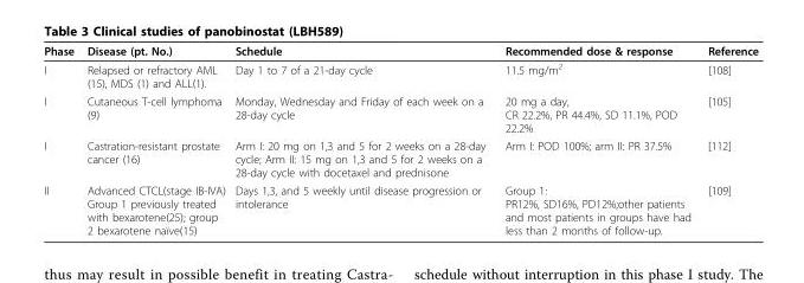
<table><thead><tr><td>Phase</td><td>Disease (pt. No.)</td><td>Schedule</td><td>Recommended dose &amp; response</td><td>Reference</td></tr></thead><tbody><tr><td>I</td><td>Relapsed or refractory AML (15), MDS (1) and ALL(1).</td><td>Day 1 to 7 of a 21-day cycle</td><td>11.5 mg/m<sup>2</sup></td><td>[108]</td></tr><tr><td>I</td><td>Cutaneous T-cell lymphoma (9)</td><td>Monday, Wednesday and Friday of each week on a 28-day cycle</td><td>20 mg a day, CR 22.2%, PR 44.4%, SD 11.1%, POD 22.2%</td><td>[105]</td></tr><tr><td>I</td><td>Castration-resistant prostate cancer (16)</td><td>Arm I: 20 mg on 1,3 and 5 for 2 weeks on a 28-day cycle; Arm II: 15 mg on 1,3 and 5 for 2 weeks on a 28-day cycle with docetaxel and prednisone</td><td>Arm I: POD 100%; arm II: PR 37.5%</td><td>[112]</td></tr><tr><td>II</td><td>Advanced CTCL(stage IB-IVA) Group 1 previously treated with bexarotene(25); group 2 bexarotene naïve(15)</td><td>Days 1,3, and 5 weekly until disease progression or intolerance</td><td>Group 1: PR12%, SD16%, PD12%;other patients and most patients in groups have had less than 2 months of follow-up.</td><td>[109]</td></tr></tbody></table>